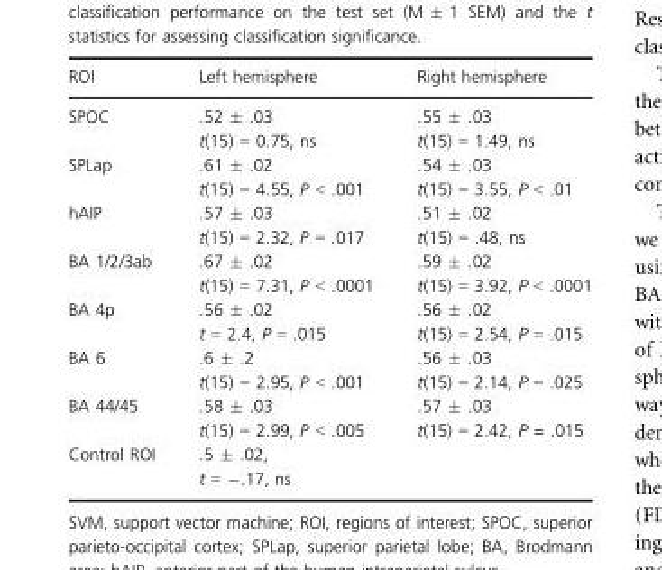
<table><thead><tr><td>ROI</td><td>Left hemisphere</td><td>Right hemisphere</td></tr></thead><tbody><tr><td>SPOC</td><td>.52 ± .03 t(15) = 0.75, ns</td><td>.55 ± .03 t(15) = 1.49, ns</td></tr><tr><td>SPLap</td><td>.61 ± .02 t(15) = 4.55, P &lt; .001</td><td>.54 ± .03 t(15) = 3.55, P &lt; .01</td></tr><tr><td>hAIP</td><td>.57 ± .03 t(15) = 2.32, P = .017</td><td>.51 ± .02 t(15) = .48, ns</td></tr><tr><td>BA 1/2/3ab</td><td>.67 ± .02 t(15) = 7.31, P &lt; .0001</td><td>.59 ± .02 t(15) = 3.92, P &lt; .0001</td></tr><tr><td>BA 4p</td><td>.56 ± .02 t = 2.4, P = .015</td><td>.56 ± .02 t(15) = 2.54, P = .015</td></tr><tr><td>BA 6</td><td>.6 ± .2 t(15) = 2.95, P &lt; .001</td><td>.56 ± .03 t(15) = 2.14, P = .025</td></tr><tr><td>BA 44/45</td><td>.58 ± .03 t(15) = 2.99, P &lt; .005</td><td>.57 ± .03 t(15) = 2.42, P = .015</td></tr><tr><td>Control ROI</td><td colspan="2">.5 ± .02, t = −.17, ns</td></tr></tbody></table>